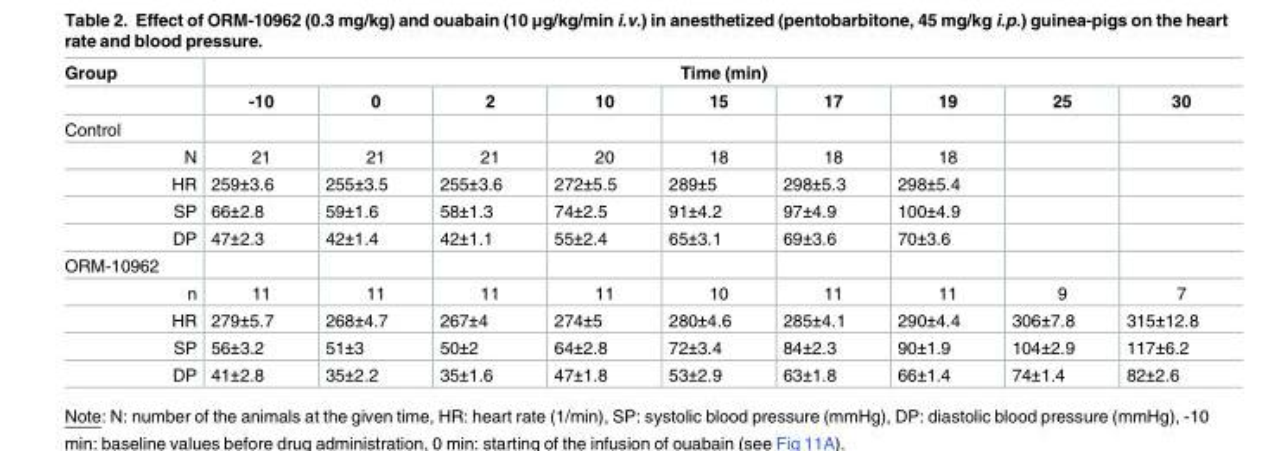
<table><thead><tr><td rowspan="2">Group</td><td colspan="9">Time (min)</td></tr><tr><td>-10</td><td>0</td><td>2</td><td>10</td><td>15</td><td>17</td><td>19</td><td>25</td><td>30</td></tr></thead><tbody><tr><td colspan="10">Control</td></tr><tr><td>N</td><td>21</td><td>21</td><td>21</td><td>20</td><td>18</td><td>18</td><td>18</td><td></td><td></td></tr><tr><td>HR</td><td>259±3.6</td><td>255±3.5</td><td>255±3.6</td><td>272±5.5</td><td>289±5</td><td>298±5.3</td><td>298±5.4</td><td></td><td></td></tr><tr><td>SP</td><td>66±2.8</td><td>59±1.6</td><td>58±1.3</td><td>74±2.5</td><td>91±4.2</td><td>97±4.9</td><td>100±4.9</td><td></td><td></td></tr><tr><td>DP</td><td>47±2.3</td><td>42±1.4</td><td>42±1.1</td><td>55±2.4</td><td>65±3.1</td><td>69±3.6</td><td>70±3.6</td><td></td><td></td></tr><tr><td colspan="10">ORM-10962</td></tr><tr><td>n</td><td>11</td><td>11</td><td>11</td><td>11</td><td>10</td><td>11</td><td>11</td><td>9</td><td>7</td></tr><tr><td>HR</td><td>279±5.7</td><td>268±4.7</td><td>267±4</td><td>274±5</td><td>280±4.6</td><td>285±4.1</td><td>290±4.4</td><td>306±7.8</td><td>315±12.8</td></tr><tr><td>SP</td><td>56±3.2</td><td>51±3</td><td>50±2</td><td>64±2.8</td><td>72±3.4</td><td>84±2.3</td><td>90±1.9</td><td>104±2.9</td><td>117±6.2</td></tr><tr><td>DP</td><td>41±2.8</td><td>35±2.2</td><td>35±1.6</td><td>47±1.8</td><td>53±2.9</td><td>63±1.8</td><td>66±1.4</td><td>74±1.4</td><td>82±2.6</td></tr></tbody></table>